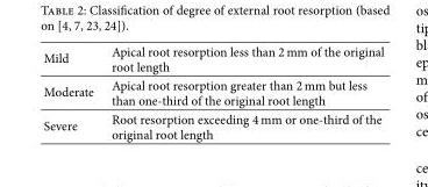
<table><tbody><tr><td>Mild</td><td>Apical root resorption less than 2 mm of the original root length</td></tr><tr><td>Moderate</td><td>Apical root resorption greater than 2 mm but less than one-third of the original root length</td></tr><tr><td>Severe</td><td>Root resorption exceeding 4 mm or one-third of the original root length</td></tr></tbody></table>